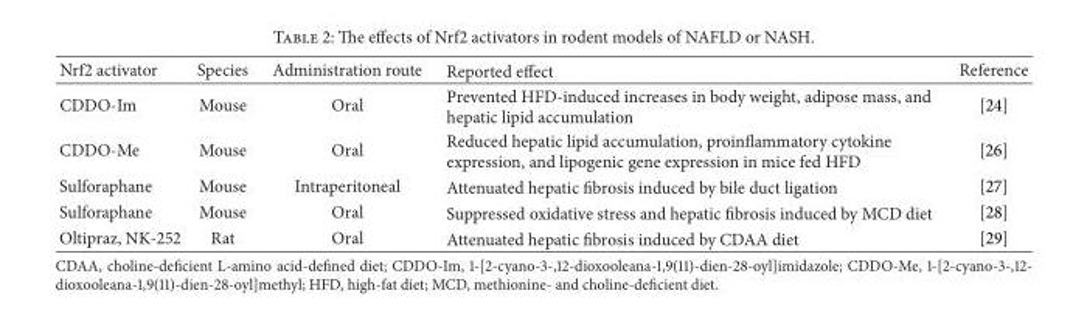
<table><thead><tr><td>Nrf2 activator</td><td>Species</td><td>Administration route</td><td>Reported effect</td><td>Reference</td></tr></thead><tbody><tr><td>CDDO-Im</td><td>Mouse</td><td>Oral</td><td>Prevented HFD-induced increases in body weight, adipose mass, and hepatic lipid accumulation</td><td>[24]</td></tr><tr><td>CDDO-Me</td><td>Mouse</td><td>Oral</td><td>Reduced hepatic lipid accumulation, proinflammatory cytokine expression, and lipogenic gene expression in mice fed HFD</td><td>[26]</td></tr><tr><td>Sulforaphane</td><td>Mouse</td><td>Intraperitoneal</td><td>Attenuated hepatic fibrosis induced by bile duct ligation</td><td>[27]</td></tr><tr><td>Sulforaphane</td><td>Mouse</td><td>Oral</td><td>Suppressed oxidative stress and hepatic fibrosis induced by MCD diet</td><td>[28]</td></tr><tr><td>Oltipraz, NK-252</td><td>Rat</td><td>Oral</td><td>Attenuated hepatic fibrosis induced by CDAA diet</td><td>[29]</td></tr></tbody></table>